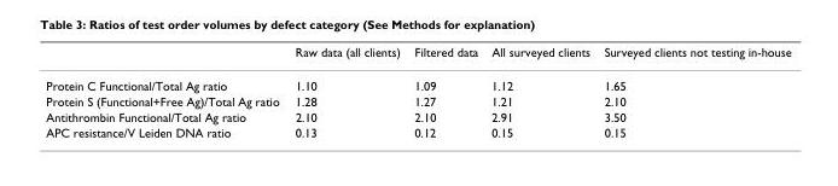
<table><thead><tr><td></td><td>Raw data (all clients)</td><td>Filtered data</td><td>All surveyed clients</td><td>Surveyed clients not testing in-house</td></tr></thead><tbody><tr><td>Protein C Functional/Total Ag ratio</td><td>1.10</td><td>1.09</td><td>1.12</td><td>1.65</td></tr><tr><td>Protein S (Functional+Free Ag)/Total Ag ratio</td><td>1.28</td><td>1.27</td><td>1.21</td><td>2.10</td></tr><tr><td>Antithrombin Functional/Total Ag ratio</td><td>2.10</td><td>2.10</td><td>2.91</td><td>3.50</td></tr><tr><td>APC resistance/V Leiden DNA ratio</td><td>0.13</td><td>0.12</td><td>0.15</td><td>0.15</td></tr></tbody></table>